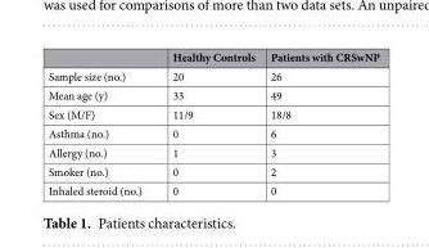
<table><thead><tr><td></td><td>Healthy Controls</td><td>Patients with CRSwNP</td></tr></thead><tbody><tr><td>Sample size (no.)</td><td>20</td><td>26</td></tr><tr><td>Mean age (y)</td><td>33</td><td>49</td></tr><tr><td>Sex (M/F)</td><td>11/9</td><td>18/8</td></tr><tr><td>Asthma (no.)</td><td>0</td><td>6</td></tr><tr><td>Allergy (no.)</td><td>1</td><td>3</td></tr><tr><td>Smoker (no.)</td><td>0</td><td>2</td></tr><tr><td>Inhaled steroid (no.)</td><td>0</td><td>0</td></tr></tbody></table>